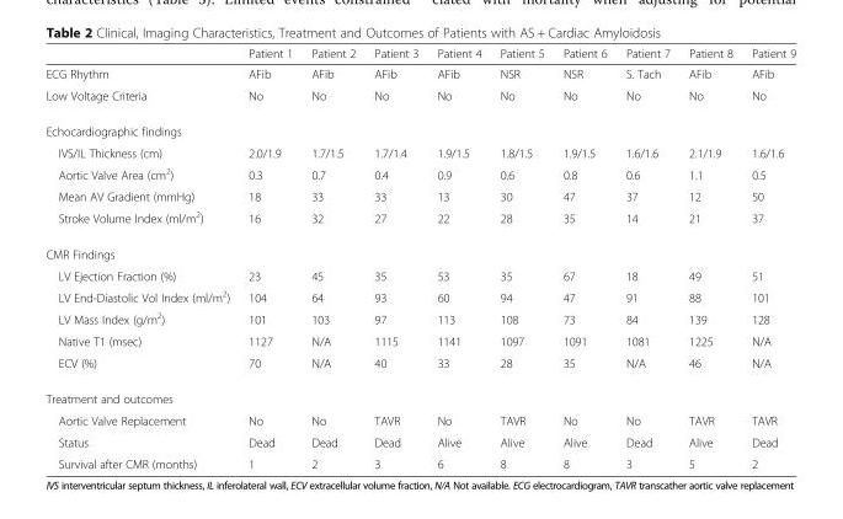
<table><thead><tr><td></td><td>Patient 1</td><td>Patient 2</td><td>Patient 3</td><td>Patient 4</td><td>Patient 5</td><td>Patient 6</td><td>Patient 7</td><td>Patient 8</td><td>Patient 9</td></tr></thead><tbody><tr><td>ECG Rhythm</td><td>AFib</td><td>AFib</td><td>AFib</td><td>AFib</td><td>NSR</td><td>NSR</td><td>S. Tach</td><td>AFib</td><td>AFib</td></tr><tr><td>Low Voltage Criteria</td><td>No</td><td>No</td><td>No</td><td>No</td><td>No</td><td>No</td><td>No</td><td>No</td><td>No</td></tr><tr><td colspan="10">Echocardiographic findings</td></tr><tr><td>IVS/IL Thickness (cm)</td><td>2.0/1.9</td><td>1.7/1.5</td><td>1.7/1.4</td><td>1.9/1.5</td><td>1.8/1.5</td><td>1.9/1.5</td><td>1.6/1.6</td><td>2.1/1.9</td><td>1.6/1.6</td></tr><tr><td>Aortic Valve Area (cm<sup>2</sup>)</td><td>0.3</td><td>0.7</td><td>0.4</td><td>0.9</td><td>0.6</td><td>0.8</td><td>0.6</td><td>1.1</td><td>0.5</td></tr><tr><td>Mean AV Gradient (mmHg)</td><td>18</td><td>33</td><td>33</td><td>13</td><td>30</td><td>47</td><td>37</td><td>12</td><td>50</td></tr><tr><td>Stroke Volume Index (ml/m<sup>2</sup>)</td><td>16</td><td>32</td><td>27</td><td>22</td><td>28</td><td>35</td><td>14</td><td>21</td><td>37</td></tr><tr><td colspan="10">CMR Findings</td></tr><tr><td>LV Ejection Fraction (%)</td><td>23</td><td>45</td><td>35</td><td>53</td><td>35</td><td>67</td><td>18</td><td>49</td><td>51</td></tr><tr><td>LV End-Diastolic Vol Index (ml/m<sup>2</sup>)</td><td>104</td><td>64</td><td>93</td><td>60</td><td>94</td><td>47</td><td>91</td><td>88</td><td>101</td></tr><tr><td>LV Mass Index (g/m<sup>2</sup>)</td><td>101</td><td>103</td><td>97</td><td>113</td><td>108</td><td>73</td><td>84</td><td>139</td><td>128</td></tr><tr><td>Native T1 (msec)</td><td>1127</td><td>N/A</td><td>1115</td><td>1141</td><td>1097</td><td>1091</td><td>1081</td><td>1225</td><td>N/A</td></tr><tr><td>ECV (%)</td><td>70</td><td>N/A</td><td>40</td><td>33</td><td>28</td><td>35</td><td>N/A</td><td>46</td><td>N/A</td></tr><tr><td colspan="10">Treatment and outcomes</td></tr><tr><td>Aortic Valve Replacement</td><td>No</td><td>No</td><td>TAVR</td><td>No</td><td>TAVR</td><td>No</td><td>No</td><td>TAVR</td><td>TAVR</td></tr><tr><td>Status</td><td>Dead</td><td>Dead</td><td>Dead</td><td>Alive</td><td>Alive</td><td>Alive</td><td>Dead</td><td>Alive</td><td>Dead</td></tr><tr><td>Survival after CMR (months)</td><td>1</td><td>2</td><td>3</td><td>6</td><td>8</td><td>8</td><td>3</td><td>5</td><td>2</td></tr></tbody></table>